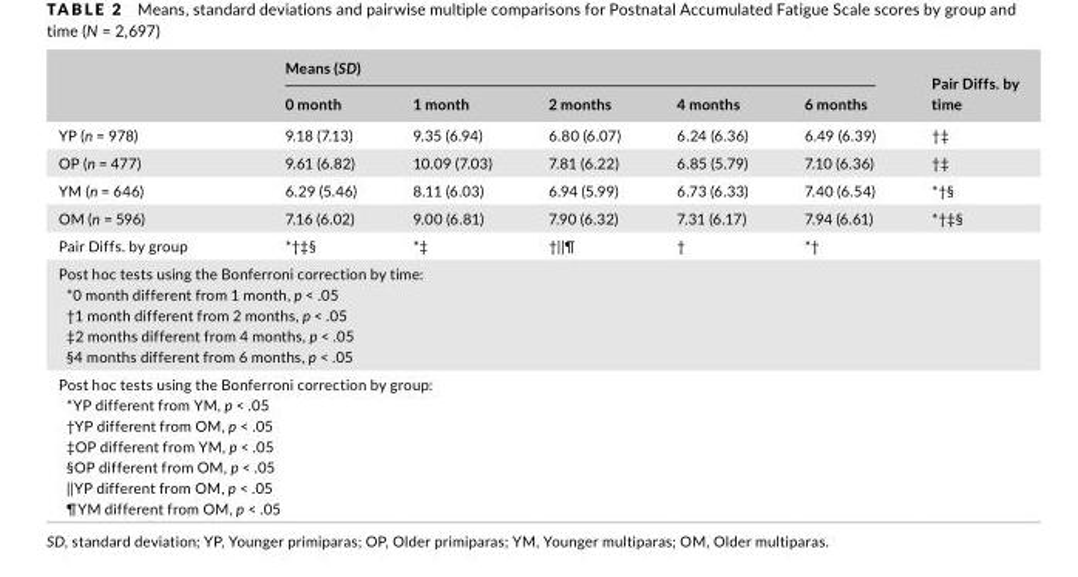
<table><thead><tr><td rowspan="2"></td><td colspan="5">Means (SD)</td><td rowspan="2">Pair Diffs. by time</td></tr><tr><td>0 month</td><td>1 month</td><td>2 months</td><td>4 months</td><td>6 months</td></tr></thead><tbody><tr><td>YP (n = 978)</td><td>9.18 (7.13)</td><td>9.35 (6.94)</td><td>6.80 (6.07)</td><td>6.24 (6.36)</td><td>6.49 (6.39)</td><td>†‡</td></tr><tr><td>OP (n = 477)</td><td>9.61 (6.82)</td><td>10.09 (7.03)</td><td>7.81 (6.22)</td><td>6.85 (5.79)</td><td>7.10 (6.36)</td><td>†‡</td></tr><tr><td>YM (n = 646)</td><td>6.29 (5.46)</td><td>8.11 (6.03)</td><td>6.94 (5.99)</td><td>6.73 (6.33)</td><td>7.40 (6.54)</td><td>*†§</td></tr><tr><td>OM (n = 596)</td><td>7.16 (6.02)</td><td>9.00 (6.81)</td><td>7.90 (6.32)</td><td>7.31 (6.17)</td><td>7.94 (6.61)</td><td>*†‡§</td></tr><tr><td>Pair Diffs. by group</td><td>*†‡§</td><td>*‡</td><td>†||¶</td><td>†</td><td>*†</td><td></td></tr><tr><td colspan="7">Post hoc tests using the Bonferroni correction by time: *0 month different from 1 month, p &lt; .05 †1 month different from 2 months, p &lt; .05 ‡2 months different from 4 months, p &lt; .05 §4 months different from 6 months, p &lt; .05 Post hoc tests using the Bonferroni correction by group: *YP different from YM, p &lt; .05 †YP different from OM, p &lt; .05 ‡OP different from YM, p &lt; .05 §OP different from OM, p &lt; .05 ||YP different from OM, p &lt; .05 ¶YM different from OM, p &lt; .05</td></tr></tbody></table>